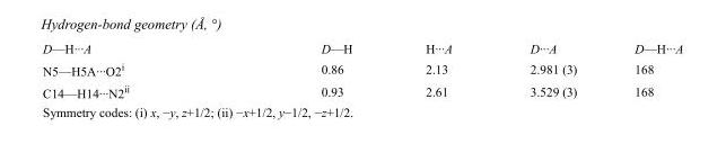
<table><tbody><tr><td>D—H···A</td><td>D—H</td><td>H···A</td><td>D···A</td><td>D—H···A</td></tr><tr><td>N5—H5A···O2<sup>i</sup></td><td>0.86</td><td>2.13</td><td>2.981 (3)</td><td>168</td></tr><tr><td>C14—H14···N2<sup>ii</sup></td><td>0.93</td><td>2.61</td><td>3.529 (3)</td><td>168</td></tr></tbody></table>